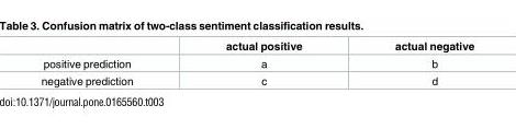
<table><thead><tr><td></td><td>actual positive</td><td>actual negative</td></tr></thead><tbody><tr><td>positive prediction</td><td>a</td><td>b</td></tr><tr><td>negative prediction</td><td>c</td><td>d</td></tr></tbody></table>